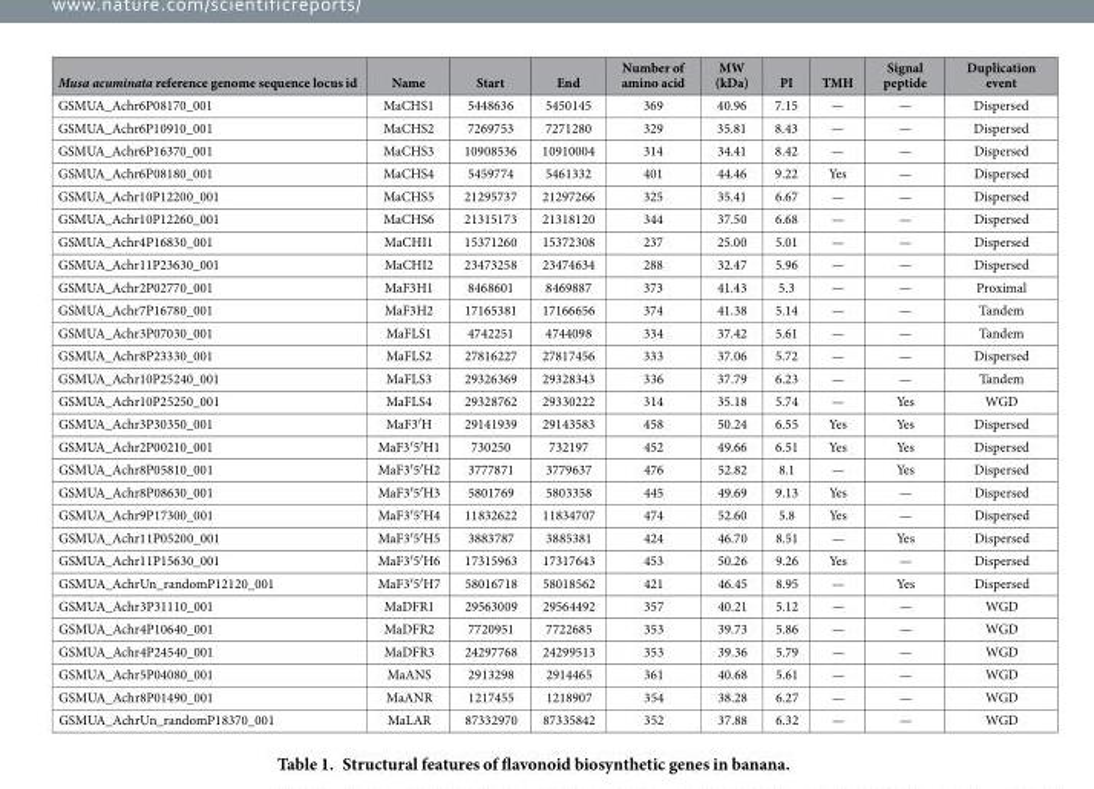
<table><thead><tr><td>Musa acuminata reference genome sequence locus id</td><td>Name</td><td>Start</td><td>End</td><td>Number of amino acid</td><td>MW (kDa)</td><td>PI</td><td>TMH</td><td>Signal peptide</td><td>Duplication event</td></tr></thead><tbody><tr><td>GSMUA_Achr6P08170_001</td><td>MaCHS1</td><td>5448636</td><td>5450145</td><td>369</td><td>40.96</td><td>7.15</td><td>—</td><td>—</td><td>Dispersed</td></tr><tr><td>GSMUA_Achr6P10910_001</td><td>MaCHS2</td><td>7269753</td><td>7271280</td><td>329</td><td>35.81</td><td>8.43</td><td>—</td><td>—</td><td>Dispersed</td></tr><tr><td>GSMUA_Achr6P16370_001</td><td>MaCHS3</td><td>10908536</td><td>10910004</td><td>314</td><td>34.41</td><td>8.42</td><td>—</td><td>—</td><td>Dispersed</td></tr><tr><td>GSMUA_Achr6P08180_001</td><td>MaCHS4</td><td>5459774</td><td>5461332</td><td>401</td><td>44.46</td><td>9.22</td><td>Yes</td><td>—</td><td>Dispersed</td></tr><tr><td>GSMUA_Achr10P12200_001</td><td>MaCHS5</td><td>21295737</td><td>21297266</td><td>325</td><td>35.41</td><td>6.67</td><td>—</td><td>—</td><td>Dispersed</td></tr><tr><td>GSMUA_Achr10P12260_001</td><td>MaCHS6</td><td>21315173</td><td>21318120</td><td>344</td><td>37.50</td><td>6.68</td><td>—</td><td>—</td><td>Dispersed</td></tr><tr><td>GSMUA_Achr4P16830_001</td><td>MaCHI1</td><td>15371260</td><td>15372308</td><td>237</td><td>25.00</td><td>5.01</td><td>—</td><td>—</td><td>Dispersed</td></tr><tr><td>GSMUA_Achr11P23630_001</td><td>MaCHI2</td><td>23473258</td><td>23474634</td><td>288</td><td>32.47</td><td>5.96</td><td>—</td><td>—</td><td>Dispersed</td></tr><tr><td>GSMUA_Achr2P02770_001</td><td>MaF3H1</td><td>8468601</td><td>8469887</td><td>373</td><td>41.43</td><td>5.3</td><td>—</td><td>—</td><td>Proximal</td></tr><tr><td>GSMUA_Achr7P16780_001</td><td>MaF3H2</td><td>17165381</td><td>17166656</td><td>374</td><td>41.38</td><td>5.14</td><td>—</td><td>—</td><td>Tandem</td></tr><tr><td>GSMUA_Achr3P07030_001</td><td>MaFLS1</td><td>4742251</td><td>4744098</td><td>334</td><td>37.42</td><td>5.61</td><td>—</td><td>—</td><td>Tandem</td></tr><tr><td>GSMUA_Achr8P23330_001</td><td>MaFLS2</td><td>27816227</td><td>27817456</td><td>333</td><td>37.06</td><td>5.72</td><td>—</td><td>—</td><td>Dispersed</td></tr><tr><td>GSMUA_Achr10P25240_001</td><td>MaFLS3</td><td>29326369</td><td>29328343</td><td>336</td><td>37.79</td><td>6.23</td><td>—</td><td>—</td><td>Tandem</td></tr><tr><td>GSMUA_Achr10P25250_001</td><td>MaFLS4</td><td>29328762</td><td>29330222</td><td>314</td><td>35.18</td><td>5.74</td><td>—</td><td>Yes</td><td>WGD</td></tr><tr><td>GSMUA_Achr3P30350_001</td><td>MaF3′ H</td><td>29141939</td><td>29143583</td><td>458</td><td>50.24</td><td>6.55</td><td>Yes</td><td>Yes</td><td>Dispersed</td></tr><tr><td>GSMUA_Achr2P00210_001</td><td>MaF3′ 5′ H1</td><td>730250</td><td>732197</td><td>452</td><td>49.66</td><td>6.51</td><td>Yes</td><td>Yes</td><td>Dispersed</td></tr><tr><td>GSMUA_Achr8P05810_001</td><td>MaF3′ 5′ H2</td><td>3777871</td><td>3779637</td><td>476</td><td>52.82</td><td>8.1</td><td>—</td><td>Yes</td><td>Dispersed</td></tr><tr><td>GSMUA_Achr8P08630_001</td><td>MaF3′ 5′ H3</td><td>5801769</td><td>5803358</td><td>445</td><td>49.69</td><td>9.13</td><td>Yes</td><td>—</td><td>Dispersed</td></tr><tr><td>GSMUA_Achr9P17300_001</td><td>MaF3′ 5′ H4</td><td>11832622</td><td>11834707</td><td>474</td><td>52.60</td><td>5.8</td><td>Yes</td><td>—</td><td>Dispersed</td></tr><tr><td>GSMUA_Achr11P05200_001</td><td>MaF3′ 5′ H5</td><td>3883787</td><td>3885381</td><td>424</td><td>46.70</td><td>8.51</td><td>—</td><td>Yes</td><td>Dispersed</td></tr><tr><td>GSMUA_Achr11P15630_001</td><td>MaF3′ 5′ H6</td><td>17315963</td><td>17317643</td><td>453</td><td>50.26</td><td>9.26</td><td>Yes</td><td>—</td><td>Dispersed</td></tr><tr><td>GSMUA_AchrUn_randomP12120_001</td><td>MaF3′ 5′ H7</td><td>58016718</td><td>58018562</td><td>421</td><td>46.45</td><td>8.95</td><td>—</td><td>Yes</td><td>Dispersed</td></tr><tr><td>GSMUA_Achr3P31110_001</td><td>MaDFR1</td><td>29563009</td><td>29564492</td><td>357</td><td>40.21</td><td>5.12</td><td>—</td><td>—</td><td>WGD</td></tr><tr><td>GSMUA_Achr4P10640_001</td><td>MaDFR2</td><td>7720951</td><td>7722685</td><td>353</td><td>39.73</td><td>5.86</td><td>—</td><td>—</td><td>WGD</td></tr><tr><td>GSMUA_Achr4P24540_001</td><td>MaDFR3</td><td>24297768</td><td>24299513</td><td>353</td><td>39.36</td><td>5.79</td><td>—</td><td>—</td><td>WGD</td></tr><tr><td>GSMUA_Achr5P04080_001</td><td>MaANS</td><td>2913298</td><td>2914465</td><td>361</td><td>40.68</td><td>5.61</td><td>—</td><td>—</td><td>WGD</td></tr><tr><td>GSMUA_Achr8P01490_001</td><td>MaANR</td><td>1217455</td><td>1218907</td><td>354</td><td>38.28</td><td>6.27</td><td>—</td><td>—</td><td>WGD</td></tr><tr><td>GSMUA_AchrUn_randomP18370_001</td><td>MaLAR</td><td>87332970</td><td>87335842</td><td>352</td><td>37.88</td><td>6.32</td><td>—</td><td>—</td><td>WGD</td></tr></tbody></table>